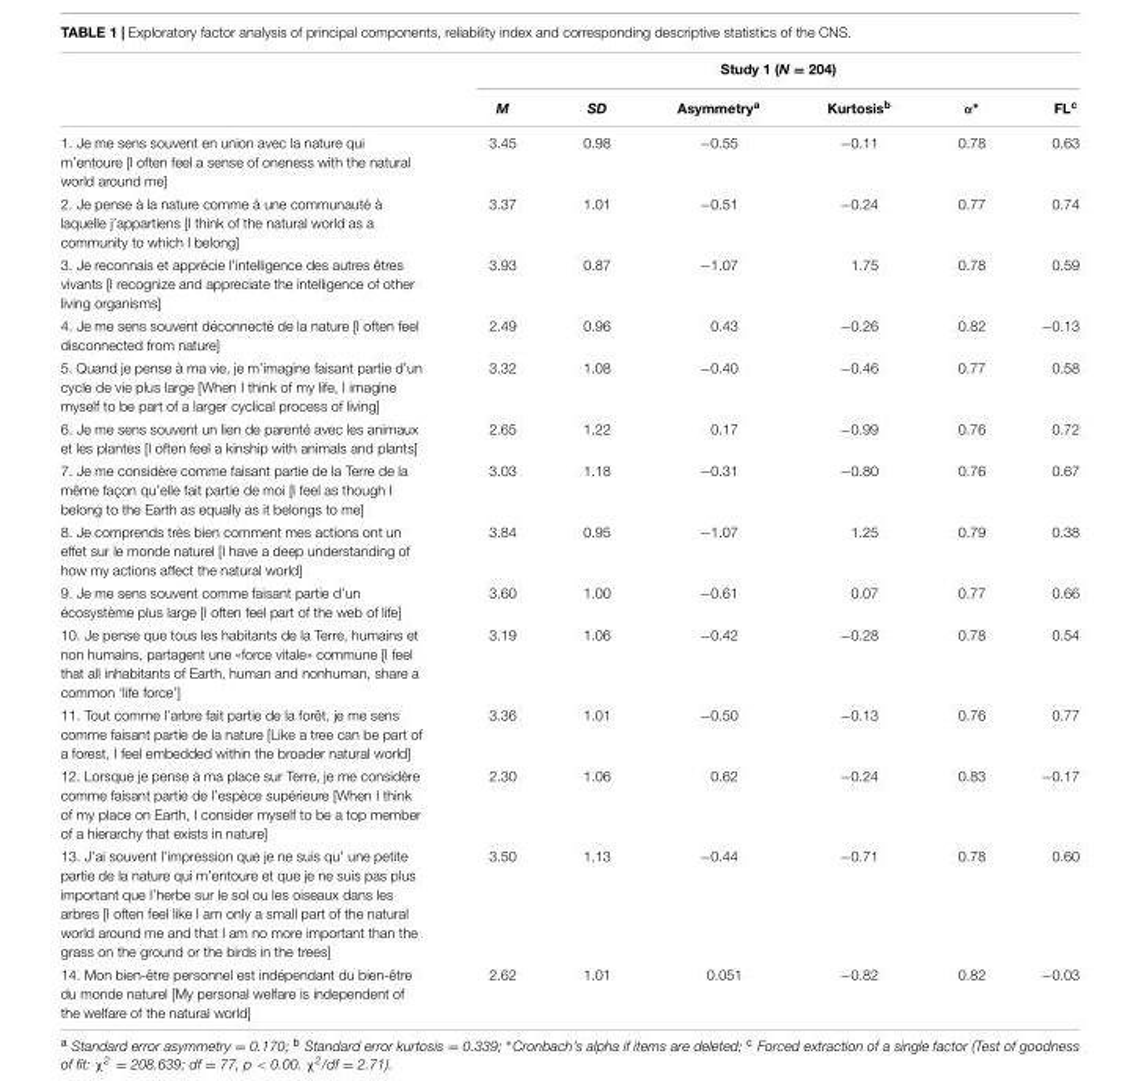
<table><thead><tr><td rowspan="2"></td><td colspan="6">Study 1 (N = 204)</td></tr><tr><td>M</td><td>SD</td><td>Asymmetry<sup>a</sup></td><td>Kurtosis<sup>b</sup></td><td>α∗</td><td>FL<sup>c</sup></td></tr></thead><tbody><tr><td>1. Je me sens souvent en union avec la nature qui m’entoure [I often feel a sense of oneness with the natural world around me]</td><td>3.45</td><td>0.98</td><td>−0.55</td><td>−0.11</td><td>0.78</td><td>0.63</td></tr><tr><td>2. Je pense à la nature comme à une communauté à laquelle j’appartiens [I think of the natural world as a community to which I belong]</td><td>3.37</td><td>1.01</td><td>−0.51</td><td>−0.24</td><td>0.77</td><td>0.74</td></tr><tr><td>3. Je reconnais et apprécie l’intelligence des autres êtres vivants [I recognize and appreciate the intelligence of other living organisms]</td><td>3.93</td><td>0.87</td><td>−1.07</td><td>1.75</td><td>0.78</td><td>0.59</td></tr><tr><td>4. Je me sens souvent déconnecté de la nature [I often feel disconnected from nature]</td><td>2.49</td><td>0.96</td><td>0.43</td><td>−0.26</td><td>0.82</td><td>−0.13</td></tr><tr><td>5. Quand je pense à ma vie, je m’imagine faisant partie d’un cycle de vie plus large [When I think of my life, I imagine myself to be part of a larger cyclical process of living]</td><td>3.32</td><td>1.08</td><td>−0.40</td><td>−0.46</td><td>0.77</td><td>0.58</td></tr><tr><td>6. Je me sens souvent un lien de parenté avec les animaux et les plantes [I often feel a kinship with animals and plants]</td><td>2.65</td><td>1.22</td><td>0.17</td><td>−0.99</td><td>0.76</td><td>0.72</td></tr><tr><td>7. Je me considère comme faisant partie de la Terre de la même façon qu’elle fait partie de moi [I feel as though I belong to the Earth as equally as it belongs to me]</td><td>3.03</td><td>1.18</td><td>−0.31</td><td>−0.80</td><td>0.76</td><td>0.67</td></tr><tr><td>8. Je comprends très bien comment mes actions ont un effet sur le monde naturel [I have a deep understanding of how my actions affect the natural world]</td><td>3.84</td><td>0.95</td><td>−1.07</td><td>1.25</td><td>0.79</td><td>0.38</td></tr><tr><td>9. Je me sens souvent comme faisant partie d’un écosystème plus large [I often feel part of the web of life]</td><td>3.60</td><td>1.00</td><td>−0.61</td><td>0.07</td><td>0.77</td><td>0.66</td></tr><tr><td>10. Je pense que tous les habitants de la Terre, humains et non humains, partagent une «force vitale» commune [I feel that all inhabitants of Earth, human and nonhuman, share a common ‘life force’]</td><td>3.19</td><td>1.06</td><td>−0.42</td><td>−0.28</td><td>0.78</td><td>0.54</td></tr><tr><td>11. Tout comme l’arbre fait partie de la forêt, je me sens comme faisant partie de la nature [Like a tree can be part of a forest, I feel embedded within the broader natural world]</td><td>3.36</td><td>1.01</td><td>−0.50</td><td>−0.13</td><td>0.76</td><td>0.77</td></tr><tr><td>12. Lorsque je pense à ma place sur Terre, je me considère comme faisant partie de l’espèce supérieure [When I think of my place on Earth, I consider myself to be a top member of a hierarchy that exists in nature]</td><td>2.30</td><td>1.06</td><td>0.62</td><td>−0.24</td><td>0.83</td><td>−0.17</td></tr><tr><td>13. J’ai souvent l’impression que je ne suis qu’ une petite partie de la nature qui m’entoure et que je ne suis pas plus important que l’herbe sur le sol ou les oiseaux dans les arbres [I often feel like I am only a small part of the natural world around me and that I am no more important than the grass on the ground or the birds in the trees]</td><td>3.50</td><td>1.13</td><td>−0.44</td><td>−0.71</td><td>0.78</td><td>0.60</td></tr><tr><td>14. Mon bien-être personnel est indépendant du bien-être du monde naturel [My personal welfare is independent of the welfare of the natural world]</td><td>2.62</td><td>1.01</td><td>0.051</td><td>−0.82</td><td>0.82</td><td>−0.03</td></tr></tbody></table>